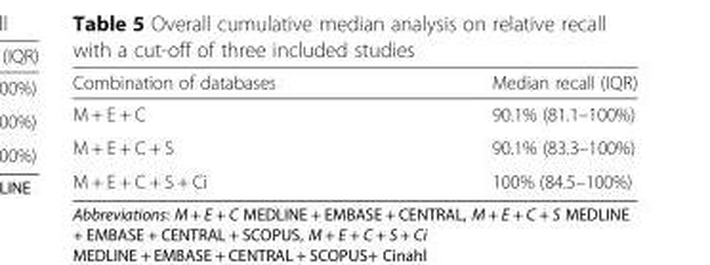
<table><thead><tr><td>Combination of databases</td><td>Median recall (IQR)</td></tr></thead><tbody><tr><td>M + E + C</td><td>90.1% (81.1–100%)</td></tr><tr><td>M + E + C + S</td><td>90.1% (83.3–100%)</td></tr><tr><td>M + E + C + S + Ci</td><td>100% (84.5–100%)</td></tr></tbody></table>